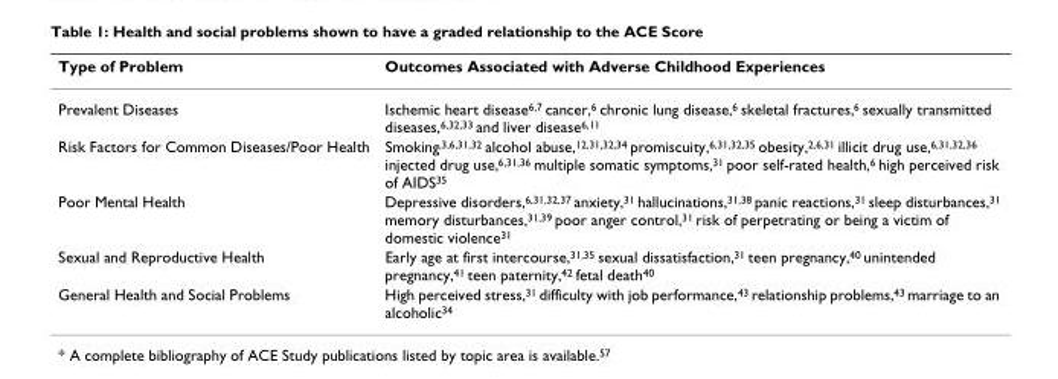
<table><thead><tr><td>Type of Problem</td><td>Outcomes Associated with Adverse Childhood Experiences</td></tr></thead><tbody><tr><td>Prevalent Diseases</td><td>Ischemic heart disease<sup>6,7</sup> cancer,<sup>6</sup> chronic lung disease,<sup>6</sup> skeletal fractures,<sup>6</sup> sexually transmitted diseases,<sup>6,32,33</sup> and liver disease<sup>6,11</sup></td></tr><tr><td>Risk Factors for Common Diseases/Poor Health</td><td>Smoking<sup>,3,6,31,32</sup> alcohol abuse,<sup>12,31,32,34</sup> promiscuity,<sup>6,31,32,35</sup> obesity,<sup>2,6,31</sup> illicit drug use,<sup>6,31,32,36</sup> injected drug use,<sup>6,31,36</sup> multiple somatic symptoms,<sup>31</sup> poor self-rated health,<sup>6</sup> high perceived risk of AIDS<sup>35</sup></td></tr><tr><td>Poor Mental Health</td><td>Depressive disorders,<sup>6,31,32,37</sup> anxiety,<sup>31</sup> hallucinations,<sup>31,38</sup> panic reactions,<sup>31</sup> sleep disturbances,<sup>31</sup> memory disturbances,<sup>31,39</sup> poor anger control,<sup>31</sup> risk of perpetrating or being a victim of domestic violence<sup>31</sup></td></tr><tr><td>Sexual and Reproductive Health</td><td>Early age at first intercourse,<sup>31,35</sup> sexual dissatisfaction,<sup>31</sup> teen pregnancy,<sup>40</sup> unintended pregnancy,<sup>41</sup> teen paternity,<sup>42</sup> fetal death<sup>40</sup></td></tr><tr><td>General Health and Social Problems</td><td>High perceived stress,<sup>31</sup> difficulty with job performance,<sup>43</sup> relationship problems,<sup>43</sup> marriage to an alcoholic<sup>34</sup></td></tr></tbody></table>